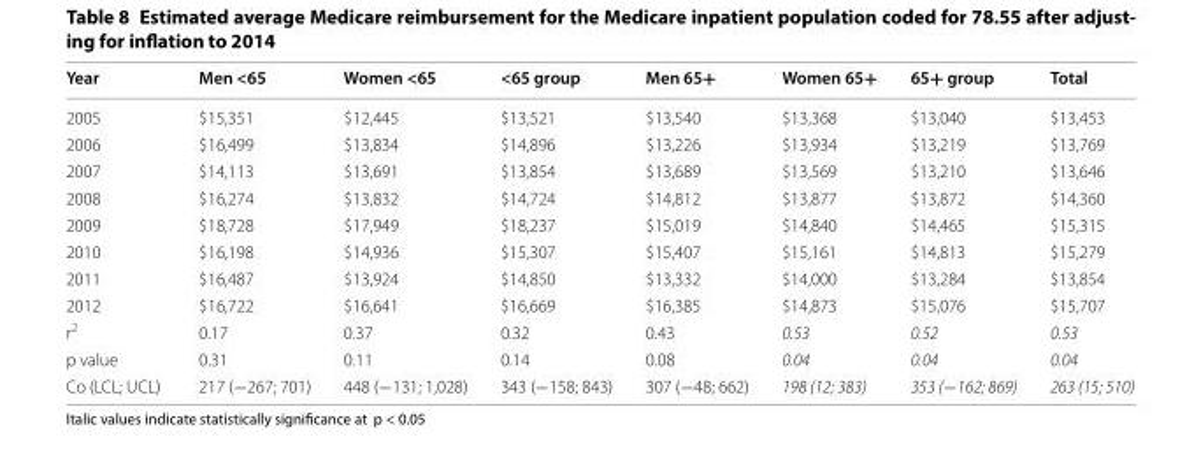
<table><thead><tr><td>Year</td><td>Men &lt;65</td><td>Women &lt;65</td><td>&lt;65 group</td><td>Men 65+</td><td>Women 65+</td><td>65+ group</td><td>Total</td></tr></thead><tbody><tr><td>2005</td><td>$15,351</td><td>$12,445</td><td>$13,521</td><td>$13,540</td><td>$13,368</td><td>$13,040</td><td>$13,453</td></tr><tr><td>2006</td><td>$16,499</td><td>$13,834</td><td>$14,896</td><td>$13,226</td><td>$13,934</td><td>$13,219</td><td>$13,769</td></tr><tr><td>2007</td><td>$14,113</td><td>$13,691</td><td>$13,854</td><td>$13,689</td><td>$13,569</td><td>$13,210</td><td>$13,646</td></tr><tr><td>2008</td><td>$16,274</td><td>$13,832</td><td>$14,724</td><td>$14,812</td><td>$13,877</td><td>$13,872</td><td>$14,360</td></tr><tr><td>2009</td><td>$18,728</td><td>$17,949</td><td>$18,237</td><td>$15,019</td><td>$14,840</td><td>$14,465</td><td>$15,315</td></tr><tr><td>2010</td><td>$16,198</td><td>$14,936</td><td>$15,307</td><td>$15,407</td><td>$15,161</td><td>$14,813</td><td>$15,279</td></tr><tr><td>2011</td><td>$16,487</td><td>$13,924</td><td>$14,850</td><td>$13,332</td><td>$14,000</td><td>$13,284</td><td>$13,854</td></tr><tr><td>2012</td><td>$16,722</td><td>$16,641</td><td>$16,669</td><td>$16,385</td><td>$14,873</td><td>$15,076</td><td>$15,707</td></tr><tr><td>r<sup>2</sup></td><td>0.17</td><td>0.37</td><td>0.32</td><td>0.43</td><td>0.53</td><td>0.52</td><td>0.53</td></tr><tr><td>p value</td><td>0.31</td><td>0.11</td><td>0.14</td><td>0.08</td><td>0.04</td><td>0.04</td><td>0.04</td></tr><tr><td>Co (LCL; UCL)</td><td>217 (−267; 701)</td><td>448 (−131; 1,028)</td><td>343 (−158; 843)</td><td>307 (−48; 662)</td><td>198 (12; 383)</td><td>353 (−162; 869)</td><td>263 (15; 510)</td></tr></tbody></table>